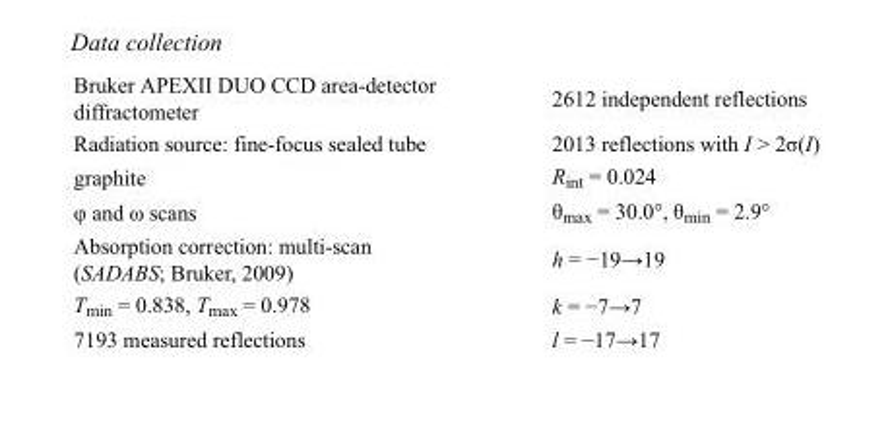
<table><tbody><tr><td>Bruker APEXII DUO CCD area-detector diffractometer</td><td>2612 independent reflections</td></tr><tr><td>Radiation source: fine-focus sealed tube</td><td>2013 reflections with I &gt; 2σ(I)</td></tr><tr><td>graphite</td><td>R<sub>int</sub> = 0.024</td></tr><tr><td>φ and ω scans</td><td>θ<sub>max</sub> = 30.0°, θ<sub>min</sub> = 2.9°</td></tr><tr><td>Absorption correction: multi-scan (SADABS; Bruker, 2009)</td><td>h = −19→19</td></tr><tr><td>T<sub>min</sub> = 0.838, T<sub>max</sub> = 0.978</td><td>k = −7→7</td></tr><tr><td>7193 measured reflections</td><td>l = −17→17</td></tr></tbody></table>